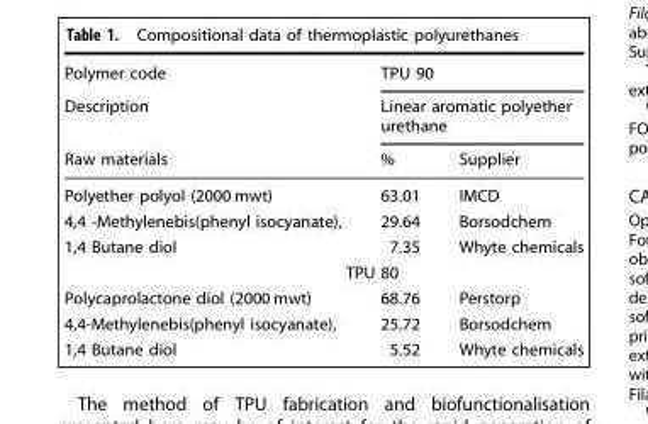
<table><thead><tr><td rowspan="3">Polymer code Description Raw materials</td><td rowspan="2" colspan="2">TPU 90 Linear aromatic polyether urethane</td></tr><tr></tr><tr><td>%</td><td>Supplier</td></tr></thead><tbody><tr><td>Polyether polyol (2000 mwt)</td><td>63.01</td><td>IMCD</td></tr><tr><td>4,4 -Methylenebis(phenyl isocyanate),</td><td>29.64</td><td>Borsodchem</td></tr><tr><td rowspan="2">1,4 Butane diol</td><td>7.35</td><td>Whyte chemicals</td></tr><tr><td colspan="2">TPU 80</td></tr><tr><td>Polycaprolactone diol (2000 mwt)</td><td>68.76</td><td>Perstorp</td></tr><tr><td>4,4-Methylenebis(phenyl isocyanate),</td><td>25.72</td><td>Borsodchem</td></tr><tr><td>1,4 Butane diol</td><td>5.52</td><td>Whyte chemicals</td></tr></tbody></table>